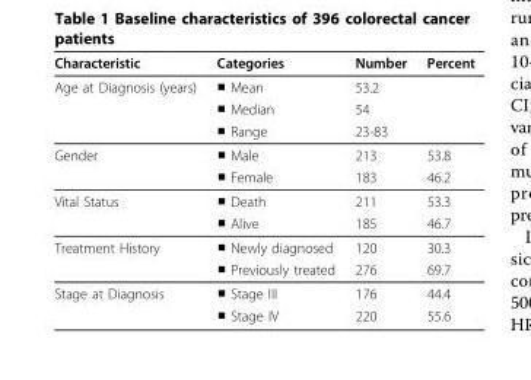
<table><thead><tr><td>Characteristic</td><td>Categories</td><td>Number</td><td>Percent</td></tr></thead><tbody><tr><td rowspan="3">Age at Diagnosis (years)</td><td>■ Mean</td><td>53.2</td><td></td></tr><tr><td>■ Median</td><td>54</td><td></td></tr><tr><td>■ Range</td><td>23-83</td><td></td></tr><tr><td rowspan="2">Gender</td><td>■ Male</td><td>213</td><td>53.8</td></tr><tr><td>■ Female</td><td>183</td><td>46.2</td></tr><tr><td rowspan="2">Vital Status</td><td>■ Death</td><td>211</td><td>53.3</td></tr><tr><td>■ Alive</td><td>185</td><td>46.7</td></tr><tr><td rowspan="2">Treatment History</td><td>■ Newly diagnosed</td><td>120</td><td>30.3</td></tr><tr><td>■ Previously treated</td><td>276</td><td>69.7</td></tr><tr><td rowspan="2">Stage at Diagnosis</td><td>■ Stage III</td><td>176</td><td>44.4</td></tr><tr><td>■ Stage IV</td><td>220</td><td>55.6</td></tr></tbody></table>